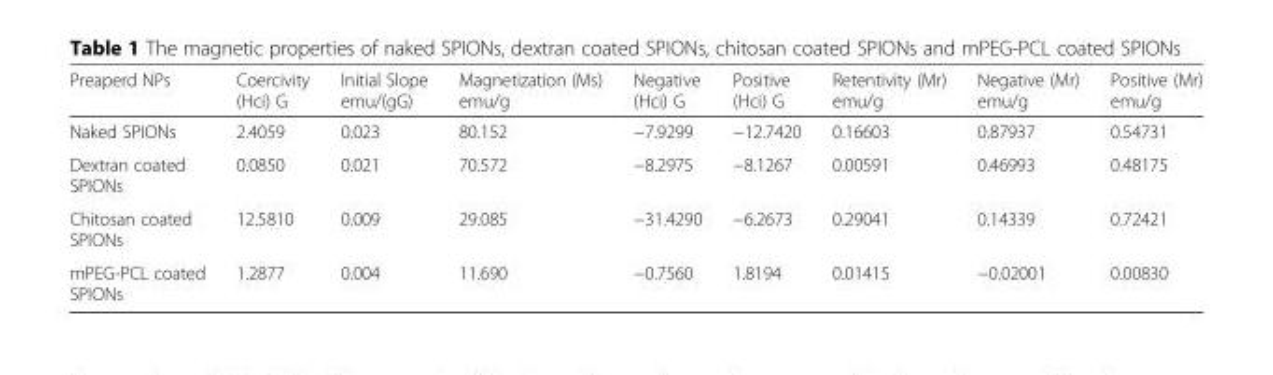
<table><thead><tr><td>Preaperd NPs</td><td>Coercivity (Hci) G</td><td>Initial Slope emu/(gG)</td><td>Magnetization (Ms) emu/g</td><td>Negative (Hci) G</td><td>Positive (Hci) G</td><td>Retentivity (Mr) emu/g</td><td>Negative (Mr) emu/g</td><td>Positive (Mr) emu/g</td></tr></thead><tbody><tr><td>Naked SPIONs</td><td>2.4059</td><td>0.023</td><td>80.152</td><td>−7.9299</td><td>−12.7420</td><td>0.16603</td><td>0.87937</td><td>0.54731</td></tr><tr><td>Dextran coated SPIONs</td><td>0.0850</td><td>0.021</td><td>70.572</td><td>−8.2975</td><td>−8.1267</td><td>0.00591</td><td>0.46993</td><td>0.48175</td></tr><tr><td>Chitosan coated SPIONs</td><td>12.5810</td><td>0.009</td><td>29.085</td><td>−31.4290</td><td>−6.2673</td><td>0.29041</td><td>0.14339</td><td>0.72421</td></tr><tr><td>mPEG-PCL coated SPIONs</td><td>1.2877</td><td>0.004</td><td>11.690</td><td>−0.7560</td><td>1.8194</td><td>0.01415</td><td>−0.02001</td><td>0.00830</td></tr></tbody></table>